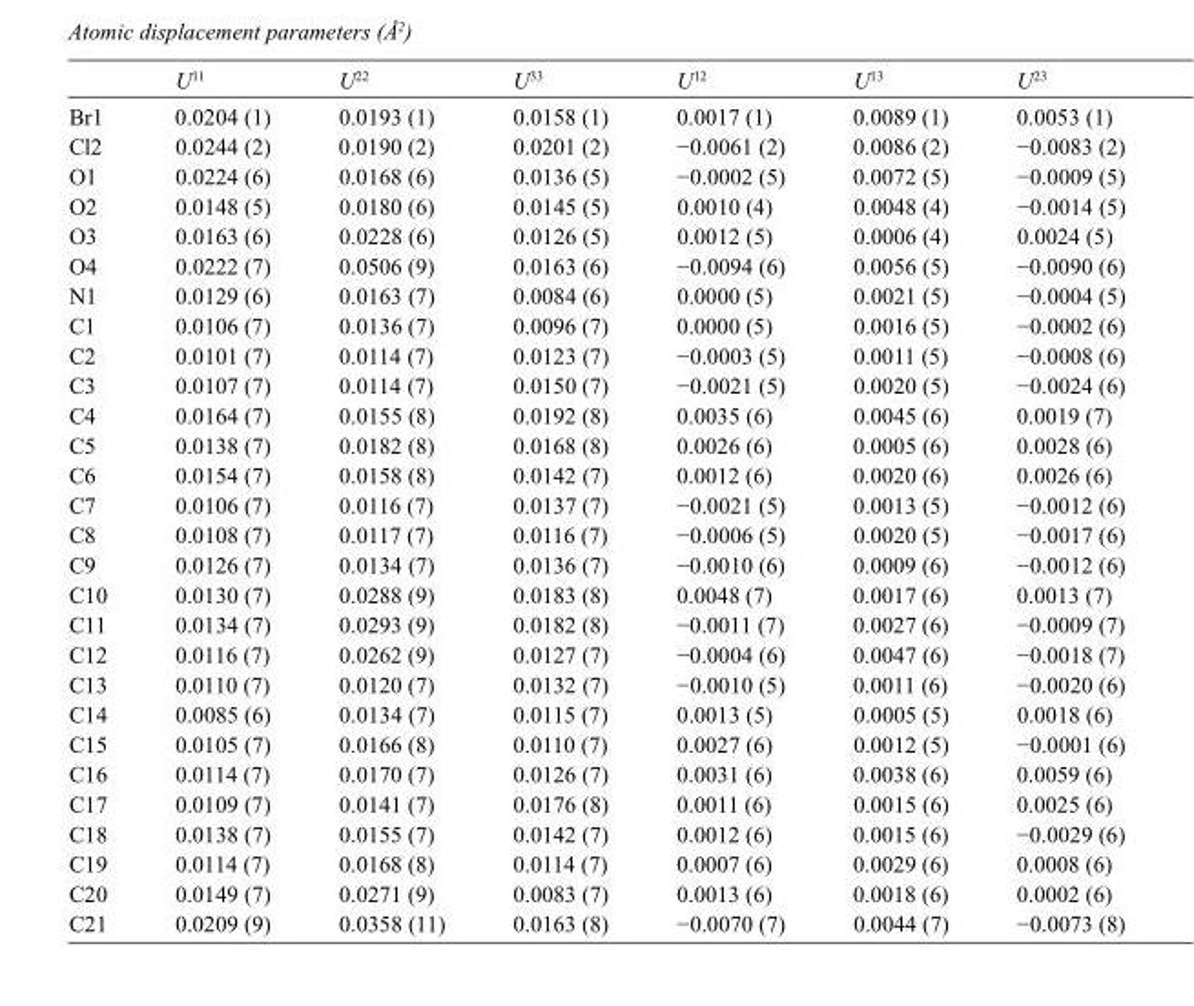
<table><thead><tr><td></td><td>U<sup>11</sup></td><td>U<sup>22</sup></td><td>U<sup>33</sup></td><td>U<sup>12</sup></td><td>U<sup>13</sup></td><td>U<sup>23</sup></td></tr></thead><tbody><tr><td>Br1</td><td>0.0204 (1)</td><td>0.0193 (1)</td><td>0.0158 (1)</td><td>0.0017 (1)</td><td>0.0089 (1)</td><td>0.0053 (1)</td></tr><tr><td>Cl2</td><td>0.0244 (2)</td><td>0.0190 (2)</td><td>0.0201 (2)</td><td>−0.0061 (2)</td><td>0.0086 (2)</td><td>−0.0083 (2)</td></tr><tr><td>O1</td><td>0.0224 (6)</td><td>0.0168 (6)</td><td>0.0136 (5)</td><td>−0.0002 (5)</td><td>0.0072 (5)</td><td>−0.0009 (5)</td></tr><tr><td>O2</td><td>0.0148 (5)</td><td>0.0180 (6)</td><td>0.0145 (5)</td><td>0.0010 (4)</td><td>0.0048 (4)</td><td>−0.0014 (5)</td></tr><tr><td>O3</td><td>0.0163 (6)</td><td>0.0228 (6)</td><td>0.0126 (5)</td><td>0.0012 (5)</td><td>0.0006 (4)</td><td>0.0024 (5)</td></tr><tr><td>O4</td><td>0.0222 (7)</td><td>0.0506 (9)</td><td>0.0163 (6)</td><td>−0.0094 (6)</td><td>0.0056 (5)</td><td>−0.0090 (6)</td></tr><tr><td>N1</td><td>0.0129 (6)</td><td>0.0163 (7)</td><td>0.0084 (6)</td><td>0.0000 (5)</td><td>0.0021 (5)</td><td>−0.0004 (5)</td></tr><tr><td>C1</td><td>0.0106 (7)</td><td>0.0136 (7)</td><td>0.0096 (7)</td><td>0.0000 (5)</td><td>0.0016 (5)</td><td>−0.0002 (6)</td></tr><tr><td>C2</td><td>0.0101 (7)</td><td>0.0114 (7)</td><td>0.0123 (7)</td><td>−0.0003 (5)</td><td>0.0011 (5)</td><td>−0.0008 (6)</td></tr><tr><td>C3</td><td>0.0107 (7)</td><td>0.0114 (7)</td><td>0.0150 (7)</td><td>−0.0021 (5)</td><td>0.0020 (5)</td><td>−0.0024 (6)</td></tr><tr><td>C4</td><td>0.0164 (7)</td><td>0.0155 (8)</td><td>0.0192 (8)</td><td>0.0035 (6)</td><td>0.0045 (6)</td><td>0.0019 (7)</td></tr><tr><td>C5</td><td>0.0138 (7)</td><td>0.0182 (8)</td><td>0.0168 (8)</td><td>0.0026 (6)</td><td>0.0005 (6)</td><td>0.0028 (6)</td></tr><tr><td>C6</td><td>0.0154 (7)</td><td>0.0158 (8)</td><td>0.0142 (7)</td><td>0.0012 (6)</td><td>0.0020 (6)</td><td>0.0026 (6)</td></tr><tr><td>C7</td><td>0.0106 (7)</td><td>0.0116 (7)</td><td>0.0137 (7)</td><td>−0.0021 (5)</td><td>0.0013 (5)</td><td>−0.0012 (6)</td></tr><tr><td>C8</td><td>0.0108 (7)</td><td>0.0117 (7)</td><td>0.0116 (7)</td><td>−0.0006 (5)</td><td>0.0020 (5)</td><td>−0.0017 (6)</td></tr><tr><td>C9</td><td>0.0126 (7)</td><td>0.0134 (7)</td><td>0.0136 (7)</td><td>−0.0010 (6)</td><td>0.0009 (6)</td><td>−0.0012 (6)</td></tr><tr><td>C10</td><td>0.0130 (7)</td><td>0.0288 (9)</td><td>0.0183 (8)</td><td>0.0048 (7)</td><td>0.0017 (6)</td><td>0.0013 (7)</td></tr><tr><td>C11</td><td>0.0134 (7)</td><td>0.0293 (9)</td><td>0.0182 (8)</td><td>−0.0011 (7)</td><td>0.0027 (6)</td><td>−0.0009 (7)</td></tr><tr><td>C12</td><td>0.0116 (7)</td><td>0.0262 (9)</td><td>0.0127 (7)</td><td>−0.0004 (6)</td><td>0.0047 (6)</td><td>−0.0018 (7)</td></tr><tr><td>C13</td><td>0.0110 (7)</td><td>0.0120 (7)</td><td>0.0132 (7)</td><td>−0.0010 (5)</td><td>0.0011 (6)</td><td>−0.0020 (6)</td></tr><tr><td>C14</td><td>0.0085 (6)</td><td>0.0134 (7)</td><td>0.0115 (7)</td><td>0.0013 (5)</td><td>0.0005 (5)</td><td>0.0018 (6)</td></tr><tr><td>C15</td><td>0.0105 (7)</td><td>0.0166 (8)</td><td>0.0110 (7)</td><td>0.0027 (6)</td><td>0.0012 (5)</td><td>−0.0001 (6)</td></tr><tr><td>C16</td><td>0.0114 (7)</td><td>0.0170 (7)</td><td>0.0126 (7)</td><td>0.0031 (6)</td><td>0.0038 (6)</td><td>0.0059 (6)</td></tr><tr><td>C17</td><td>0.0109 (7)</td><td>0.0141 (7)</td><td>0.0176 (8)</td><td>0.0011 (6)</td><td>0.0015 (6)</td><td>0.0025 (6)</td></tr><tr><td>C18</td><td>0.0138 (7)</td><td>0.0155 (7)</td><td>0.0142 (7)</td><td>0.0012 (6)</td><td>0.0015 (6)</td><td>−0.0029 (6)</td></tr><tr><td>C19</td><td>0.0114 (7)</td><td>0.0168 (8)</td><td>0.0114 (7)</td><td>0.0007 (6)</td><td>0.0029 (6)</td><td>0.0008 (6)</td></tr><tr><td>C20</td><td>0.0149 (7)</td><td>0.0271 (9)</td><td>0.0083 (7)</td><td>0.0013 (6)</td><td>0.0018 (6)</td><td>0.0002 (6)</td></tr><tr><td>C21</td><td>0.0209 (9)</td><td>0.0358 (11)</td><td>0.0163 (8)</td><td>−0.0070 (7)</td><td>0.0044 (7)</td><td>−0.0073 (8)</td></tr></tbody></table>